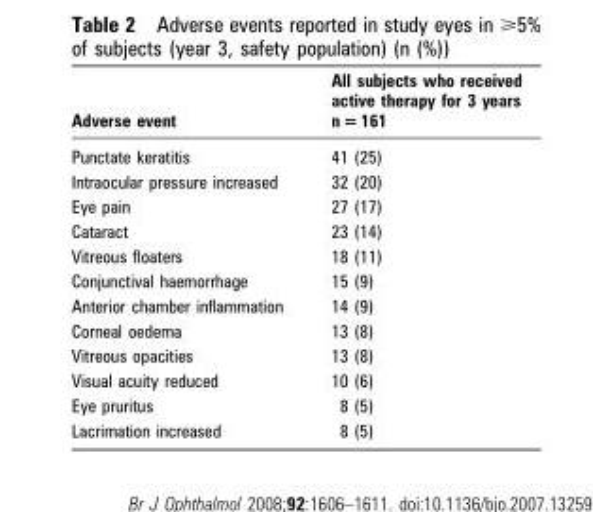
<table><thead><tr><td>Adverse event</td><td>All subjects who received active therapy for 3 years n = 161</td></tr></thead><tbody><tr><td>Punctate keratitis</td><td>41 (25)</td></tr><tr><td>Intraocular pressure increased</td><td>32 (20)</td></tr><tr><td>Eye pain</td><td>27 (17)</td></tr><tr><td>Cataract</td><td>23 (14)</td></tr><tr><td>Vitreous floaters</td><td>18 (11)</td></tr><tr><td>Conjunctival haemorrhage</td><td>15 (9)</td></tr><tr><td>Anterior chamber inflammation</td><td>14 (9)</td></tr><tr><td>Corneal oedema</td><td>13 (8)</td></tr><tr><td>Vitreous opacities</td><td>13 (8)</td></tr><tr><td>Visual acuity reduced</td><td>10 (6)</td></tr><tr><td>Eye pruritus</td><td>8 (5)</td></tr><tr><td>Lacrimation increased</td><td>8 (5)</td></tr></tbody></table>